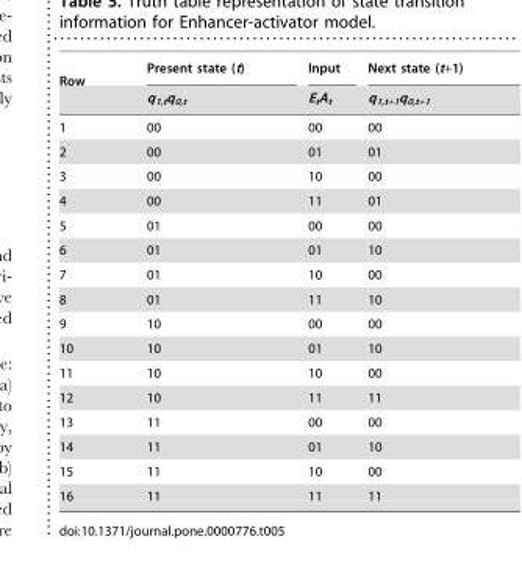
<table><thead><tr><td rowspan="2">Row</td><td rowspan="2">Present state (t) q<sub>1,t</sub>q<sub>0,t</sub></td><td rowspan="2">Input E<sub>t</sub>A<sub>t</sub></td><td rowspan="2">Next state (t+1) q<sub>1,t+1</sub>q<sub>0,t+1</sub></td></tr><tr></tr></thead><tbody><tr><td>1</td><td>00</td><td>00</td><td>00</td></tr><tr><td>2</td><td>00</td><td>01</td><td>01</td></tr><tr><td>3</td><td>00</td><td>10</td><td>00</td></tr><tr><td>4</td><td>00</td><td>11</td><td>01</td></tr><tr><td>5</td><td>01</td><td>00</td><td>00</td></tr><tr><td>6</td><td>01</td><td>01</td><td>10</td></tr><tr><td>7</td><td>01</td><td>10</td><td>00</td></tr><tr><td>8</td><td>01</td><td>11</td><td>10</td></tr><tr><td>9</td><td>10</td><td>00</td><td>00</td></tr><tr><td>10</td><td>10</td><td>01</td><td>10</td></tr><tr><td>11</td><td>10</td><td>10</td><td>00</td></tr><tr><td>12</td><td>10</td><td>11</td><td>11</td></tr><tr><td>13</td><td>11</td><td>00</td><td>00</td></tr><tr><td>14</td><td>11</td><td>01</td><td>10</td></tr><tr><td>15</td><td>11</td><td>10</td><td>00</td></tr><tr><td>16</td><td>11</td><td>11</td><td>11</td></tr></tbody></table>